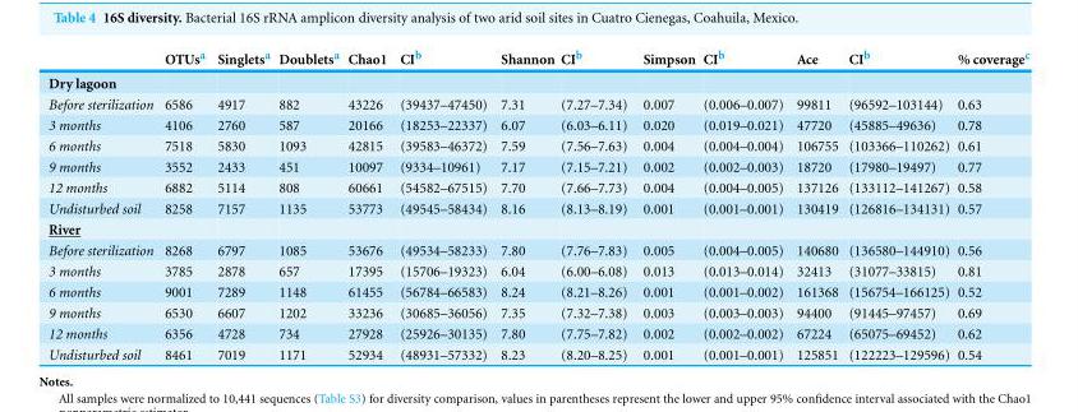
<table><thead><tr><td></td><td>OTUs<sup>a</sup></td><td>Singlets<sup>a</sup></td><td>Doublets<sup>a</sup></td><td>Chao1</td><td>CI<sup>b</sup></td><td>Shannon</td><td>CI<sup>b</sup></td><td>Simpson</td><td>CI<sup>b</sup></td><td>Ace</td><td>CI<sup>b</sup></td><td>% coverage<sup>c</sup></td></tr></thead><tbody><tr><td colspan="13">Dry lagoon</td></tr><tr><td>Before sterilization</td><td>6586</td><td>4917</td><td>882</td><td>43226</td><td>(39437–47450)</td><td>7.31</td><td>(7.27–7.34)</td><td>0.007</td><td>(0.006–0.007)</td><td>99811</td><td>(96592–103144)</td><td>0.63</td></tr><tr><td>3 months</td><td>4106</td><td>2760</td><td>587</td><td>20166</td><td>(18253–22337)</td><td>6.07</td><td>(6.03–6.11)</td><td>0.020</td><td>(0.019–0.021)</td><td>47720</td><td>(45885–49636)</td><td>0.78</td></tr><tr><td>6 months</td><td>7518</td><td>5830</td><td>1093</td><td>42815</td><td>(39583–46372)</td><td>7.59</td><td>(7.56–7.63)</td><td>0.004</td><td>(0.004–0.004)</td><td>106755</td><td>(103366–110262)</td><td>0.61</td></tr><tr><td>9 months</td><td>3552</td><td>2433</td><td>451</td><td>10097</td><td>(9334–10961)</td><td>7.17</td><td>(7.15–7.21)</td><td>0.002</td><td>(0.002–0.003)</td><td>18720</td><td>(17980–19497)</td><td>0.77</td></tr><tr><td>12 months</td><td>6882</td><td>5114</td><td>808</td><td>60661</td><td>(54582–67515)</td><td>7.70</td><td>(7.66–7.73)</td><td>0.004</td><td>(0.004–0.005)</td><td>137126</td><td>(133112–141267)</td><td>0.58</td></tr><tr><td>Undisturbed soil</td><td>8258</td><td>7157</td><td>1135</td><td>53773</td><td>(49545–58434)</td><td>8.16</td><td>(8.13–8.19)</td><td>0.001</td><td>(0.001–0.001)</td><td>130419</td><td>(126816–134131)</td><td>0.57</td></tr><tr><td colspan="13">River</td></tr><tr><td>Before sterilization</td><td>8268</td><td>6797</td><td>1085</td><td>53676</td><td>(49534–58233)</td><td>7.80</td><td>(7.76–7.83)</td><td>0.005</td><td>(0.004–0.005)</td><td>140680</td><td>(136580–144910)</td><td>0.56</td></tr><tr><td>3 months</td><td>3785</td><td>2878</td><td>657</td><td>17395</td><td>(15706–19323)</td><td>6.04</td><td>(6.00–6.08)</td><td>0.013</td><td>(0.013–0.014)</td><td>32413</td><td>(31077–33815)</td><td>0.81</td></tr><tr><td>6 months</td><td>9001</td><td>7289</td><td>1148</td><td>61455</td><td>(56784–66583)</td><td>8.24</td><td>(8.21–8.26)</td><td>0.001</td><td>(0.001–0.002)</td><td>161368</td><td>(156754–166125)</td><td>0.52</td></tr><tr><td>9 months</td><td>6530</td><td>6607</td><td>1202</td><td>33236</td><td>(30685–36056)</td><td>7.35</td><td>(7.32–7.38)</td><td>0.003</td><td>(0.003–0.003)</td><td>94400</td><td>(91445–97457)</td><td>0.69</td></tr><tr><td>12 months</td><td>6356</td><td>4728</td><td>734</td><td>27928</td><td>(25926–30135)</td><td>7.80</td><td>(7.75–7.82)</td><td>0.002</td><td>(0.002–0.002)</td><td>67224</td><td>(65075–69452)</td><td>0.62</td></tr><tr><td>Undisturbed soil</td><td>8461</td><td>7019</td><td>1171</td><td>52934</td><td>(48931–57332)</td><td>8.23</td><td>(8.20–8.25)</td><td>0.001</td><td>(0.001–0.001)</td><td>125851</td><td>(122223–129596)</td><td>0.54</td></tr></tbody></table>